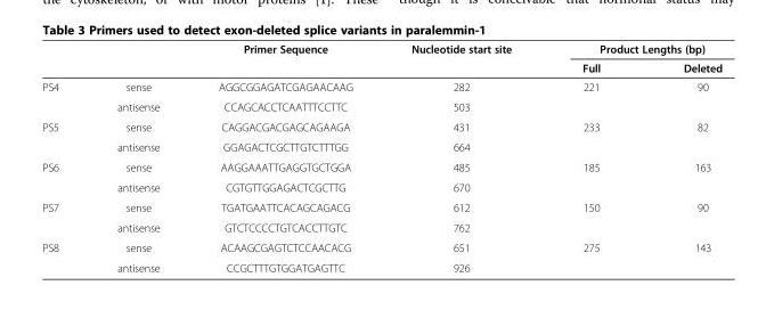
<table><thead><tr><td rowspan="2"></td><td rowspan="2"></td><td rowspan="2">Primer Sequence</td><td rowspan="2">Nucleotide start site</td><td colspan="2">Product Lengths (bp)</td></tr><tr><td>Full</td><td>Deleted</td></tr></thead><tbody><tr><td rowspan="2">PS4</td><td>sense</td><td>AGGCGGAGATCGAGAACAAG</td><td>282</td><td>221</td><td>90</td></tr><tr><td>antisense</td><td>CCAGCACCTCAATTTCCTTC</td><td>503</td><td></td><td></td></tr><tr><td rowspan="2">PS5</td><td>sense</td><td>CAGGACGACGAGCAGAAGA</td><td>431</td><td>233</td><td>82</td></tr><tr><td>antisense</td><td>GGAGACTCGCTTGTCTTTGG</td><td>664</td><td></td><td></td></tr><tr><td rowspan="2">PS6</td><td>sense</td><td>AAGGAAATTGAGGTGCTGGA</td><td>485</td><td>185</td><td>163</td></tr><tr><td>antisense</td><td>CGTGTTGGAGACTCGCTTG</td><td>670</td><td></td><td></td></tr><tr><td rowspan="2">PS7</td><td>sense</td><td>TGATGAATTCACAGCAGACG</td><td>612</td><td>150</td><td>90</td></tr><tr><td>antisense</td><td>GTCTCCCCTGTCACCTTGTC</td><td>762</td><td></td><td></td></tr><tr><td rowspan="2">PS8</td><td>sense</td><td>ACAAGCGAGTCTCCAACACG</td><td>651</td><td>275</td><td>143</td></tr><tr><td>antisense</td><td>CCGCTTTGTGGATGAGTTC</td><td>926</td><td></td><td></td></tr></tbody></table>